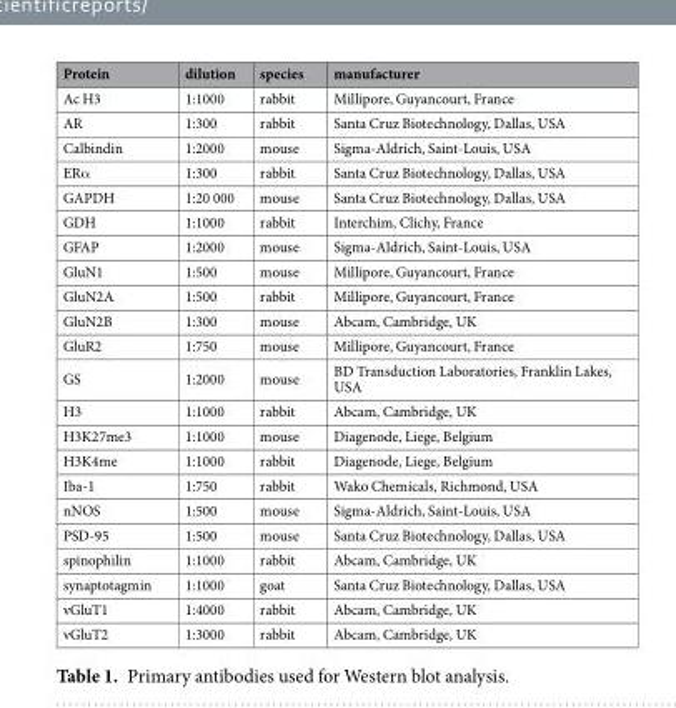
<table><thead><tr><td>Protein</td><td>dilution</td><td>species</td><td>manufacturer</td></tr></thead><tbody><tr><td>Ac H3</td><td>1:1000</td><td>rabbit</td><td>Millipore, Guyancourt, France</td></tr><tr><td>AR</td><td>1:300</td><td>rabbit</td><td>Santa Cruz Biotechnology, Dallas, USA</td></tr><tr><td>Calbindin</td><td>1:2000</td><td>mouse</td><td>Sigma-Aldrich, Saint-Louis, USA</td></tr><tr><td>ERα</td><td>1:300</td><td>rabbit</td><td>Santa Cruz Biotechnology, Dallas, USA</td></tr><tr><td>GAPDH</td><td>1:20 000</td><td>mouse</td><td>Santa Cruz Biotechnology, Dallas, USA</td></tr><tr><td>GDH</td><td>1:1000</td><td>rabbit</td><td>Interchim, Clichy, France</td></tr><tr><td>GFAP</td><td>1:2000</td><td>mouse</td><td>Sigma-Aldrich, Saint-Louis, USA</td></tr><tr><td>GluN1</td><td>1:500</td><td>mouse</td><td>Millipore, Guyancourt, France</td></tr><tr><td>GluN2A</td><td>1:500</td><td>rabbit</td><td>Millipore, Guyancourt, France</td></tr><tr><td>GluN2B</td><td>1:300</td><td>mouse</td><td>Abcam, Cambridge, UK</td></tr><tr><td>GluR2</td><td>1:750</td><td>mouse</td><td>Millipore, Guyancourt, France</td></tr><tr><td>GS</td><td>1:2000</td><td>mouse</td><td>BD Transduction Laboratories, Franklin Lakes, USA</td></tr><tr><td>H3</td><td>1:1000</td><td>rabbit</td><td>Abcam, Cambridge, UK</td></tr><tr><td>H3K27me3</td><td>1:1000</td><td>mouse</td><td>Diagenode, Liege, Belgium</td></tr><tr><td>H3K4me</td><td>1:1000</td><td>rabbit</td><td>Diagenode, Liege, Belgium</td></tr><tr><td>Iba-1</td><td>1:750</td><td>rabbit</td><td>Wako Chemicals, Richmond, USA</td></tr><tr><td>nNOS</td><td>1:500</td><td>mouse</td><td>Sigma-Aldrich, Saint-Louis, USA</td></tr><tr><td>PSD-95</td><td>1:500</td><td>mouse</td><td>Santa Cruz Biotechnology, Dallas, USA</td></tr><tr><td>spinophilin</td><td>1:1000</td><td>rabbit</td><td>Abcam, Cambridge, UK</td></tr><tr><td>synaptotagmin</td><td>1:1000</td><td>goat</td><td>Santa Cruz Biotechnology, Dallas, USA</td></tr><tr><td>vGluT1</td><td>1:4000</td><td>rabbit</td><td>Abcam, Cambridge, UK</td></tr><tr><td>vGluT2</td><td>1:3000</td><td>rabbit</td><td>Abcam, Cambridge, UK</td></tr></tbody></table>